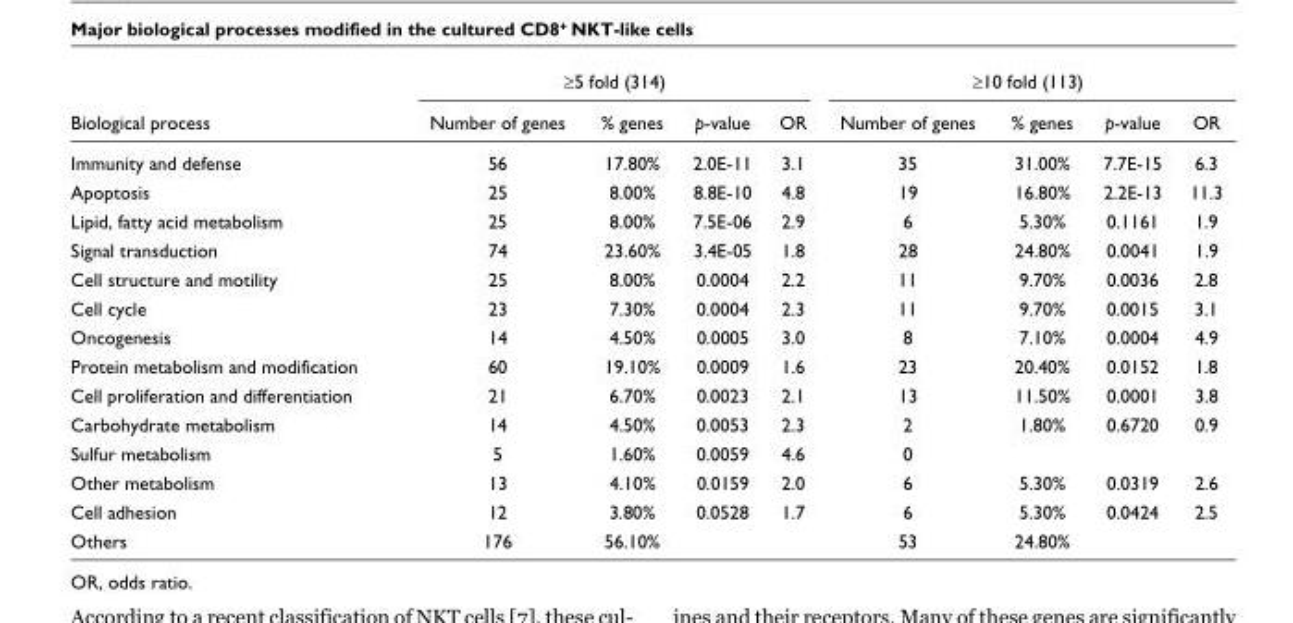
<table><thead><tr><td rowspan="2">Biological process</td><td colspan="4">≥5 fold (314)</td><td colspan="4">≥10 fold (113)</td></tr><tr><td>Number of genes</td><td>% genes</td><td>p-value</td><td>OR</td><td>Number of genes</td><td>% genes</td><td>p-value</td><td>OR</td></tr></thead><tbody><tr><td>Immunity and defense</td><td>56</td><td>17.80%</td><td>2.0E-11</td><td>3.1</td><td>35</td><td>31.00%</td><td>7.7E-15</td><td>6.3</td></tr><tr><td>Apoptosis</td><td>25</td><td>8.00%</td><td>8.8E-10</td><td>4.8</td><td>19</td><td>16.80%</td><td>2.2E-13</td><td>11.3</td></tr><tr><td>Lipid, fatty acid metabolism</td><td>25</td><td>8.00%</td><td>7.5E-06</td><td>2.9</td><td>6</td><td>5.30%</td><td>0.1161</td><td>1.9</td></tr><tr><td>Signal transduction</td><td>74</td><td>23.60%</td><td>3.4E-05</td><td>1.8</td><td>28</td><td>24.80%</td><td>0.0041</td><td>1.9</td></tr><tr><td>Cell structure and motility</td><td>25</td><td>8.00%</td><td>0.0004</td><td>2.2</td><td>11</td><td>9.70%</td><td>0.0036</td><td>2.8</td></tr><tr><td>Cell cycle</td><td>23</td><td>7.30%</td><td>0.0004</td><td>2.3</td><td>11</td><td>9.70%</td><td>0.0015</td><td>3.1</td></tr><tr><td>Oncogenesis</td><td>14</td><td>4.50%</td><td>0.0005</td><td>3.0</td><td>8</td><td>7.10%</td><td>0.0004</td><td>4.9</td></tr><tr><td>Protein metabolism and modification</td><td>60</td><td>19.10%</td><td>0.0009</td><td>1.6</td><td>23</td><td>20.40%</td><td>0.0152</td><td>1.8</td></tr><tr><td>Cell proliferation and differentiation</td><td>21</td><td>6.70%</td><td>0.0023</td><td>2.1</td><td>13</td><td>11.50%</td><td>0.0001</td><td>3.8</td></tr><tr><td>Carbohydrate metabolism</td><td>14</td><td>4.50%</td><td>0.0053</td><td>2.3</td><td>2</td><td>1.80%</td><td>0.6720</td><td>0.9</td></tr><tr><td>Sulfur metabolism</td><td>5</td><td>1.60%</td><td>0.0059</td><td>4.6</td><td>0</td><td></td><td></td><td></td></tr><tr><td>Other metabolism</td><td>13</td><td>4.10%</td><td>0.0159</td><td>2.0</td><td>6</td><td>5.30%</td><td>0.0319</td><td>2.6</td></tr><tr><td>Cell adhesion</td><td>12</td><td>3.80%</td><td>0.0528</td><td>1.7</td><td>6</td><td>5.30%</td><td>0.0424</td><td>2.5</td></tr><tr><td>Others</td><td>176</td><td>56.10%</td><td></td><td></td><td>53</td><td>24.80%</td><td></td><td></td></tr></tbody></table>